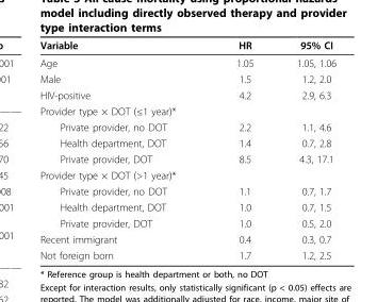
<table><thead><tr><td>Variable</td><td>HR</td><td>95% CI</td></tr></thead><tbody><tr><td>Age</td><td>1.05</td><td>1.05, 1.06</td></tr><tr><td>Male</td><td>1.5</td><td>1.2, 2.0</td></tr><tr><td>HIV-positive</td><td>4.2</td><td>2.9, 6.3</td></tr><tr><td colspan="3">Provider type × DOT (≤1 year)*</td></tr><tr><td>Private provider, no DOT</td><td>2.2</td><td>1.1, 4.6</td></tr><tr><td>Health department, DOT</td><td>1.4</td><td>0.7, 2.8</td></tr><tr><td>Private provider, DOT</td><td>8.5</td><td>4.3, 17.1</td></tr><tr><td colspan="3">Provider type × DOT (&gt;1 year)*</td></tr><tr><td>Private provider, no DOT</td><td>1.1</td><td>0.7, 1.7</td></tr><tr><td>Health department, DOT</td><td>1.0</td><td>0.7, 1.5</td></tr><tr><td>Private provider, DOT</td><td>1.0</td><td>0.5, 2.0</td></tr><tr><td>Recent immigrant</td><td>0.4</td><td>0.3, 0.7</td></tr><tr><td>Not foreign born</td><td>1.7</td><td>1.2, 2.5</td></tr></tbody></table>